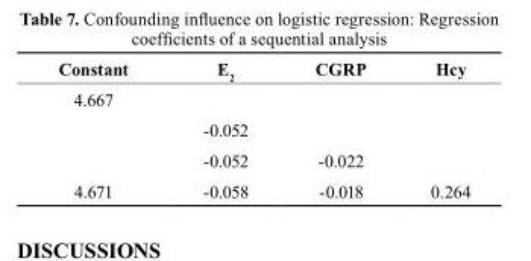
<table><thead><tr><td>constant</td><td>E<sub>2</sub></td><td>cGrP</td><td>Hcy</td></tr></thead><tbody><tr><td colspan="4">4.667</td></tr><tr><td></td><td>-0.052</td><td></td><td></td></tr><tr><td></td><td>-0.052</td><td>-0.022</td><td></td></tr><tr><td>4.671</td><td>-0.058</td><td>-0.018</td><td>0.264</td></tr></tbody></table>